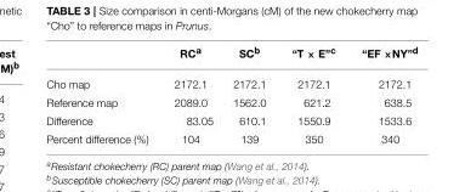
<table><thead><tr><td></td><td>RC<sup>a</sup></td><td>SC<sup>b</sup></td><td>“T × E”<sup>c</sup></td><td>“EF ×NY”<sup>d</sup></td></tr></thead><tbody><tr><td>Cho map</td><td>2172.1</td><td>2172.1</td><td>2172.1</td><td>2172.1</td></tr><tr><td>Reference map</td><td>2089.0</td><td>1562.0</td><td>621.2</td><td>638.5</td></tr><tr><td>Difference</td><td>83.05</td><td>610.1</td><td>1550.9</td><td>1533.6</td></tr><tr><td>Percent difference (%)</td><td>104</td><td>139</td><td>350</td><td>340</td></tr></tbody></table>